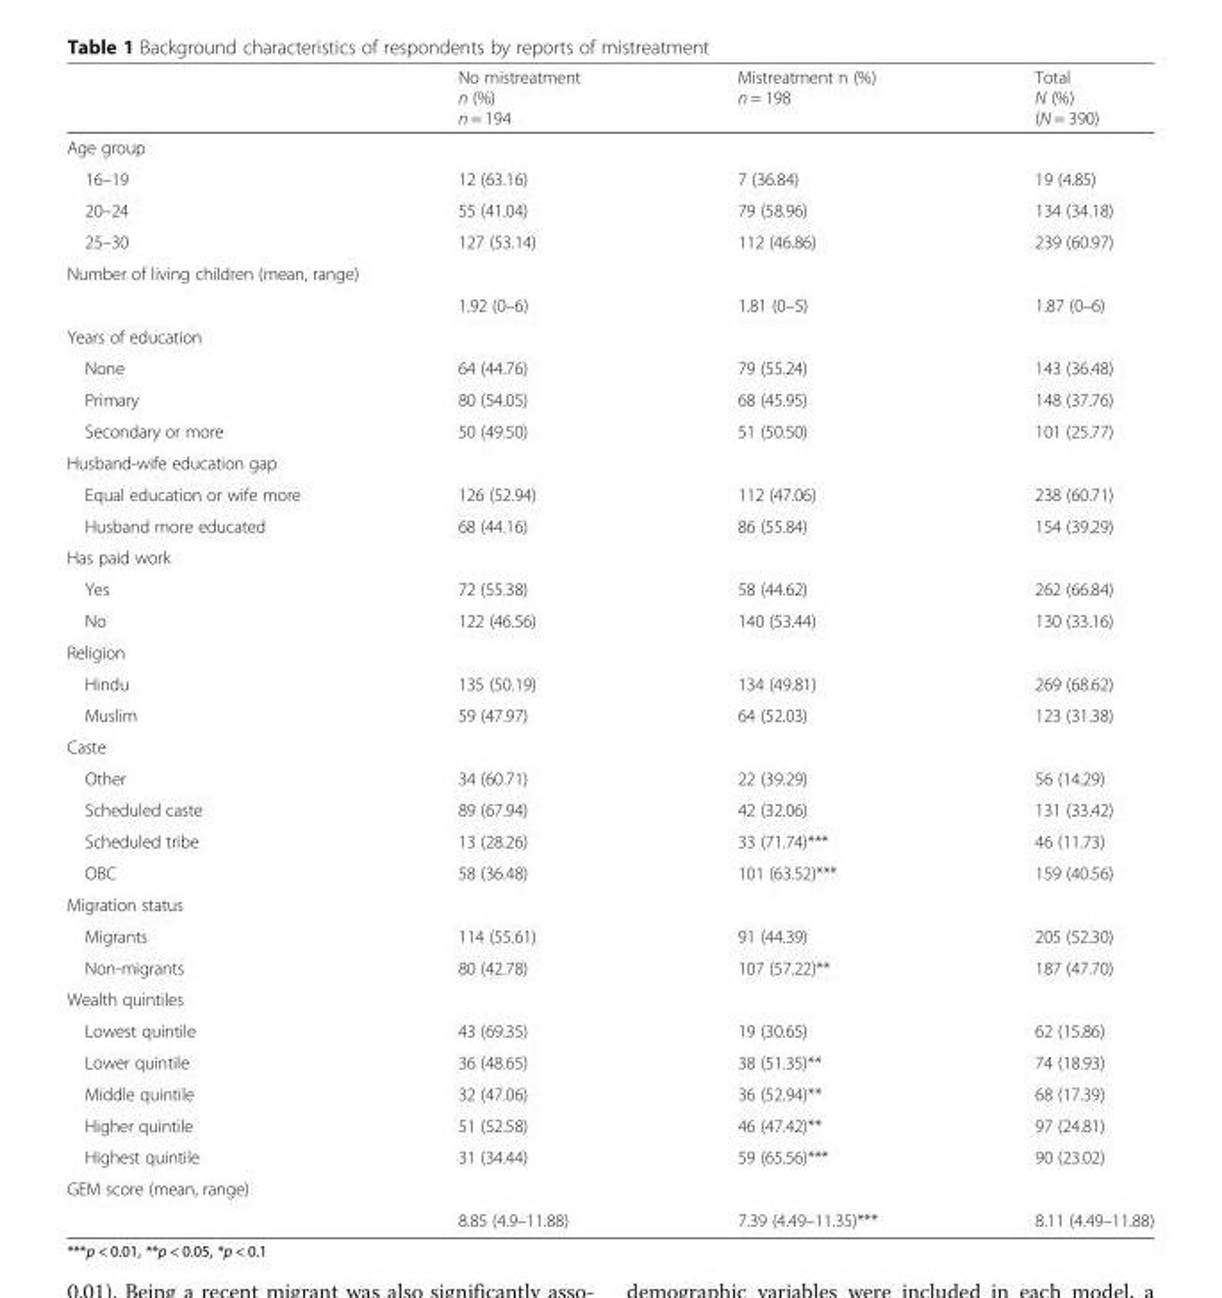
<table><thead><tr><td></td><td>No mistreatment n (%) n = 194</td><td>Mistreatment n (%) n = 198</td><td>Total N (%) (N = 390)</td></tr></thead><tbody><tr><td colspan="4">Age group</td></tr><tr><td>16–19</td><td>12 (63.16)</td><td>7 (36.84)</td><td>19 (4.85)</td></tr><tr><td>20–24</td><td>55 (41.04)</td><td>79 (58.96)</td><td>134 (34.18)</td></tr><tr><td>25–30</td><td>127 (53.14)</td><td>112 (46.86)</td><td>239 (60.97)</td></tr><tr><td colspan="4">Number of living children (mean, range)</td></tr><tr><td></td><td>1.92 (0–6)</td><td>1.81 (0–5)</td><td>1.87 (0–6)</td></tr><tr><td colspan="4">Years of education</td></tr><tr><td>None</td><td>64 (44.76)</td><td>79 (55.24)</td><td>143 (36.48)</td></tr><tr><td>Primary</td><td>80 (54.05)</td><td>68 (45.95)</td><td>148 (37.76)</td></tr><tr><td>Secondary or more</td><td>50 (49.50)</td><td>51 (50.50)</td><td>101 (25.77)</td></tr><tr><td colspan="4">Husband-wife education gap</td></tr><tr><td>Equal education or wife more</td><td>126 (52.94)</td><td>112 (47.06)</td><td>238 (60.71)</td></tr><tr><td>Husband more educated</td><td>68 (44.16)</td><td>86 (55.84)</td><td>154 (39.29)</td></tr><tr><td colspan="4">Has paid work</td></tr><tr><td>Yes</td><td>72 (55.38)</td><td>58 (44.62)</td><td>262 (66.84)</td></tr><tr><td>No</td><td>122 (46.56)</td><td>140 (53.44)</td><td>130 (33.16)</td></tr><tr><td colspan="4">Religion</td></tr><tr><td>Hindu</td><td>135 (50.19)</td><td>134 (49.81)</td><td>269 (68.62)</td></tr><tr><td>Muslim</td><td>59 (47.97)</td><td>64 (52.03)</td><td>123 (31.38)</td></tr><tr><td colspan="4">Caste</td></tr><tr><td>Other</td><td>34 (60.71)</td><td>22 (39.29)</td><td>56 (14.29)</td></tr><tr><td>Scheduled caste</td><td>89 (67.94)</td><td>42 (32.06)</td><td>131 (33.42)</td></tr><tr><td>Scheduled tribe</td><td>13 (28.26)</td><td>33 (71.74)***</td><td>46 (11.73)</td></tr><tr><td>OBC</td><td>58 (36.48)</td><td>101 (63.52)***</td><td>159 (40.56)</td></tr><tr><td colspan="4">Migration status</td></tr><tr><td>Migrants</td><td>114 (55.61)</td><td>91 (44.39)</td><td>205 (52.30)</td></tr><tr><td>Non-migrants</td><td>80 (42.78)</td><td>107 (57.22)**</td><td>187 (47.70)</td></tr><tr><td colspan="4">Wealth quintiles</td></tr><tr><td>Lowest quintile</td><td>43 (69.35)</td><td>19 (30.65)</td><td>62 (15.86)</td></tr><tr><td>Lower quintile</td><td>36 (48.65)</td><td>38 (51.35)**</td><td>74 (18.93)</td></tr><tr><td>Middle quintile</td><td>32 (47.06)</td><td>36 (52.94)**</td><td>68 (17.39)</td></tr><tr><td>Higher quintile</td><td>51 (52.58)</td><td>46 (47.42)**</td><td>97 (24.81)</td></tr><tr><td>Highest quintile</td><td>31 (34.44)</td><td>59 (65.56)***</td><td>90 (23.02)</td></tr><tr><td colspan="4">GEM score (mean, range)</td></tr><tr><td></td><td>8.85 (4.9–11.88)</td><td>7.39 (4.49–11.35)***</td><td>8.11 (4.49–11.88)</td></tr></tbody></table>